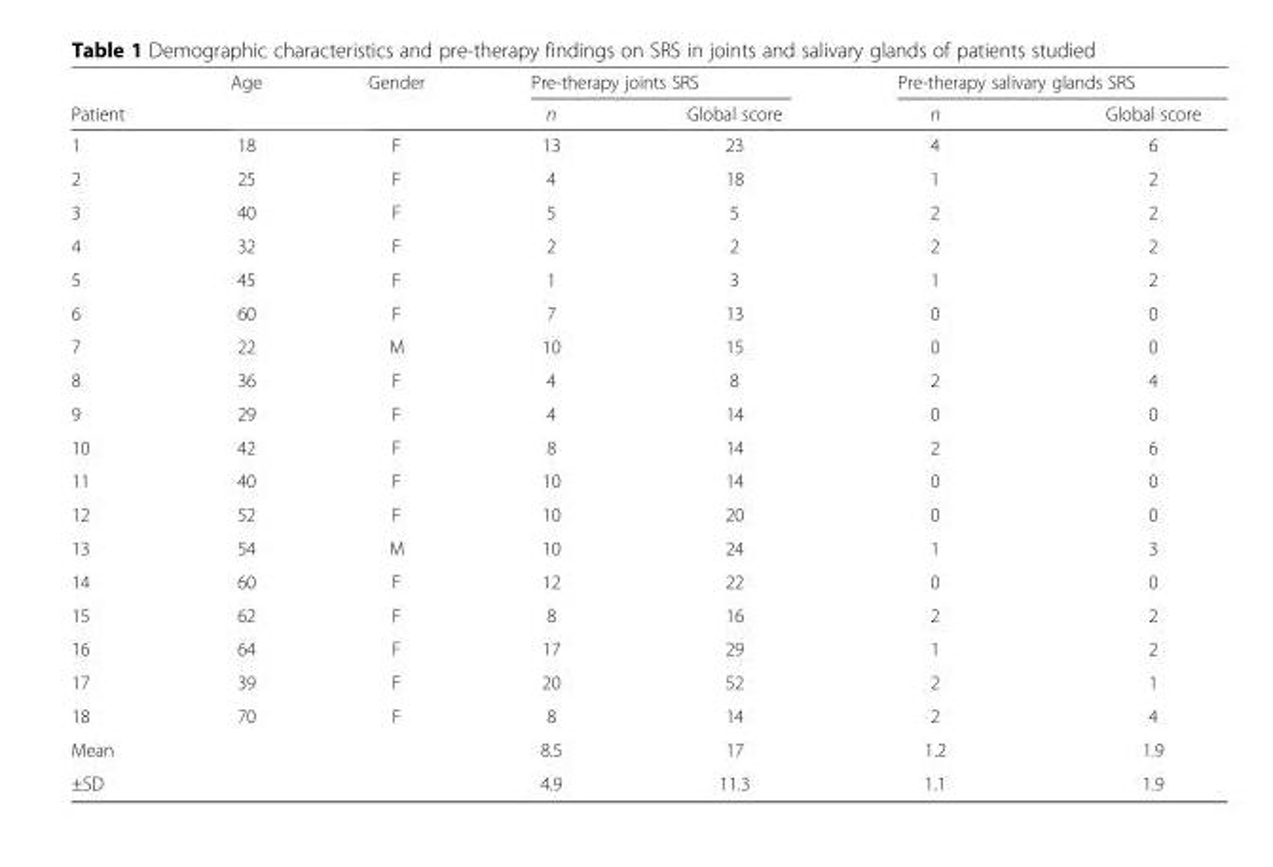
<table><thead><tr><td rowspan="2">Patient</td><td rowspan="2">Age</td><td rowspan="2">Gender</td><td colspan="2">Pre-therapy joints SRS</td><td colspan="2">Pre-therapy salivary glands SRS</td></tr><tr><td>n</td><td>Global score</td><td>n</td><td>Global score</td></tr></thead><tbody><tr><td>1</td><td>18</td><td>F</td><td>13</td><td>23</td><td>4</td><td>6</td></tr><tr><td>2</td><td>25</td><td>F</td><td>4</td><td>18</td><td>1</td><td>2</td></tr><tr><td>3</td><td>40</td><td>F</td><td>5</td><td>5</td><td>2</td><td>2</td></tr><tr><td>4</td><td>32</td><td>F</td><td>2</td><td>2</td><td>2</td><td>2</td></tr><tr><td>5</td><td>45</td><td>F</td><td>1</td><td>3</td><td>1</td><td>2</td></tr><tr><td>6</td><td>60</td><td>F</td><td>7</td><td>13</td><td>0</td><td>0</td></tr><tr><td>7</td><td>22</td><td>M</td><td>10</td><td>15</td><td>0</td><td>0</td></tr><tr><td>8</td><td>36</td><td>F</td><td>4</td><td>8</td><td>2</td><td>4</td></tr><tr><td>9</td><td>29</td><td>F</td><td>4</td><td>14</td><td>0</td><td>0</td></tr><tr><td>10</td><td>42</td><td>F</td><td>8</td><td>14</td><td>2</td><td>6</td></tr><tr><td>11</td><td>40</td><td>F</td><td>10</td><td>14</td><td>0</td><td>0</td></tr><tr><td>12</td><td>52</td><td>F</td><td>10</td><td>20</td><td>0</td><td>0</td></tr><tr><td>13</td><td>54</td><td>M</td><td>10</td><td>24</td><td>1</td><td>3</td></tr><tr><td>14</td><td>60</td><td>F</td><td>12</td><td>22</td><td>0</td><td>0</td></tr><tr><td>15</td><td>62</td><td>F</td><td>8</td><td>16</td><td>2</td><td>2</td></tr><tr><td>16</td><td>64</td><td>F</td><td>17</td><td>29</td><td>1</td><td>2</td></tr><tr><td>17</td><td>39</td><td>F</td><td>20</td><td>52</td><td>2</td><td>1</td></tr><tr><td>18</td><td>70</td><td>F</td><td>8</td><td>14</td><td>2</td><td>4</td></tr><tr><td>Mean</td><td></td><td></td><td>8.5</td><td>17</td><td>1.2</td><td>1.9</td></tr><tr><td>±SD</td><td></td><td></td><td>4.9</td><td>11.3</td><td>1.1</td><td>1.9</td></tr></tbody></table>